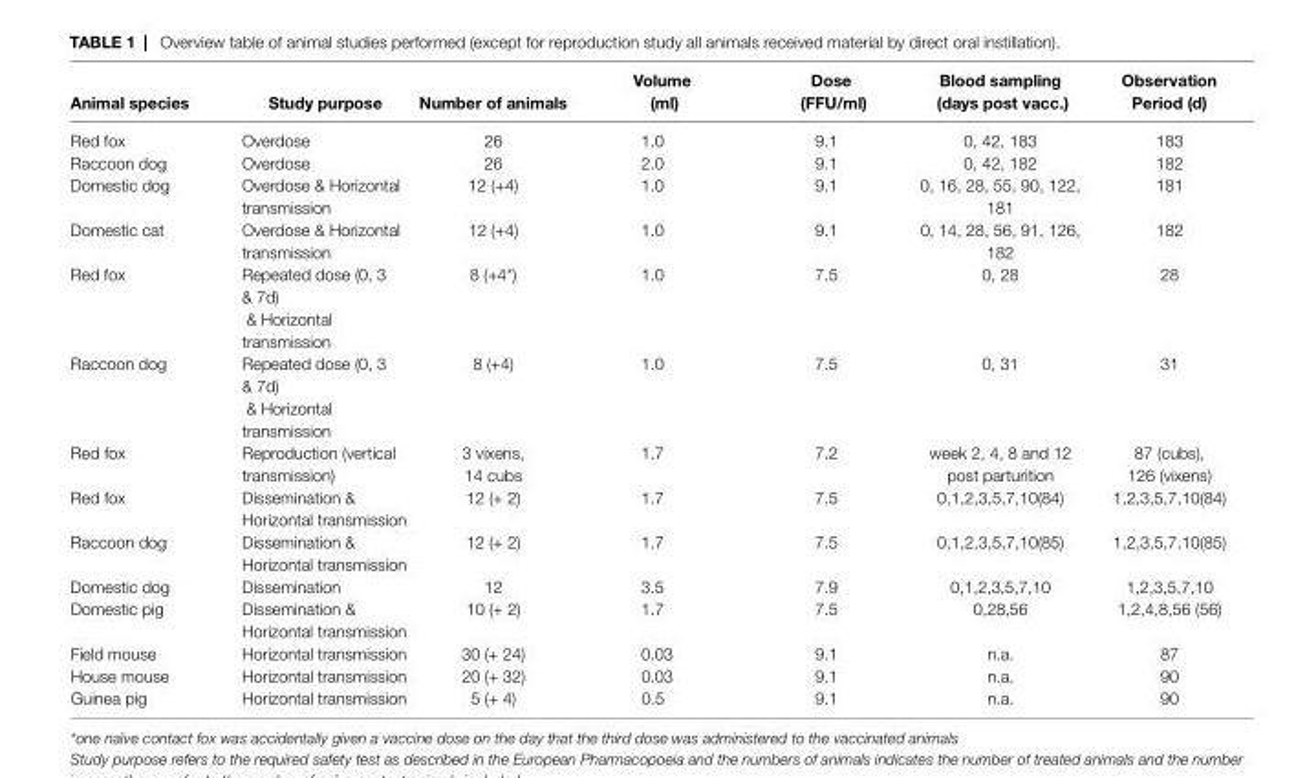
<table><thead><tr><td>animal species</td><td>study purpose</td><td>number of animals</td><td>Volume (ml)</td><td>Dose (FFu/ml)</td><td>Blood sampling (days post vacc.)</td><td>Observation Period (d)</td></tr></thead><tbody><tr><td>Red fox</td><td>Overdose</td><td>26</td><td>1.0</td><td>9.1</td><td>0, 42, 183</td><td>183</td></tr><tr><td>Raccoon dog</td><td>Overdose</td><td>26</td><td>2.0</td><td>9.1</td><td>0, 42, 182</td><td>182</td></tr><tr><td>Domestic dog</td><td>Overdose &amp; Horizontal transmission</td><td>12 (+4)</td><td>1.0</td><td>9.1</td><td>0, 16, 28, 55, 90, 122, 181</td><td>181</td></tr><tr><td>Domestic cat</td><td>Overdose &amp; Horizontal transmission</td><td>12 (+4)</td><td>1.0</td><td>9.1</td><td>0, 14, 28, 56, 91, 126, 182</td><td>182</td></tr><tr><td>Red fox</td><td>Repeated dose (0, 3 &amp; 7d) &amp; Horizontal transmission</td><td>8 (+4*)</td><td>1.0</td><td>7.5</td><td>0, 28</td><td>28</td></tr><tr><td>Raccoon dog</td><td>Repeated dose (0, 3 &amp; 7d) &amp; Horizontal transmission</td><td>8 (+4)</td><td>1.0</td><td>7.5</td><td>0, 31</td><td>31</td></tr><tr><td>Red fox</td><td>Reproduction (vertical transmission)</td><td>3 vixens, 14 cubs</td><td>1.7</td><td>7.2</td><td>week 2, 4, 8 and 12 post parturition</td><td>87 (cubs), 126 (vixens)</td></tr><tr><td>Red fox</td><td>Dissemination &amp; Horizontal transmission</td><td>12 (+ 2)</td><td>1.7</td><td>7.5</td><td>0,1,2,3,5,7,10(84)</td><td>1,2,3,5,7,10(84)</td></tr><tr><td>Raccoon dog</td><td>Dissemination &amp; Horizontal transmission</td><td>12 (+ 2)</td><td>1.7</td><td>7.5</td><td>0,1,2,3,5,7,10(85)</td><td>1,2,3,5,7,10(85)</td></tr><tr><td>Domestic dog</td><td>Dissemination</td><td>12</td><td>3.5</td><td>7.9</td><td>0,1,2,3,5,7,10</td><td>1,2,3,5,7,10</td></tr><tr><td>Domestic pig</td><td>Dissemination &amp; Horizontal transmission</td><td>10 (+ 2)</td><td>1.7</td><td>7.5</td><td>0,28,56</td><td>1,2,4,8,56 (56)</td></tr><tr><td>Field mouse</td><td>Horizontal transmission</td><td>30 (+ 24)</td><td>0.03</td><td>9.1</td><td>n.a.</td><td>87</td></tr><tr><td>House mouse</td><td>Horizontal transmission</td><td>20 (+ 32)</td><td>0.03</td><td>9.1</td><td>n.a.</td><td>90</td></tr><tr><td>Guinea pig</td><td>Horizontal transmission</td><td>5 (+ 4)</td><td>0.5</td><td>9.1</td><td>n.a.</td><td>90</td></tr></tbody></table>